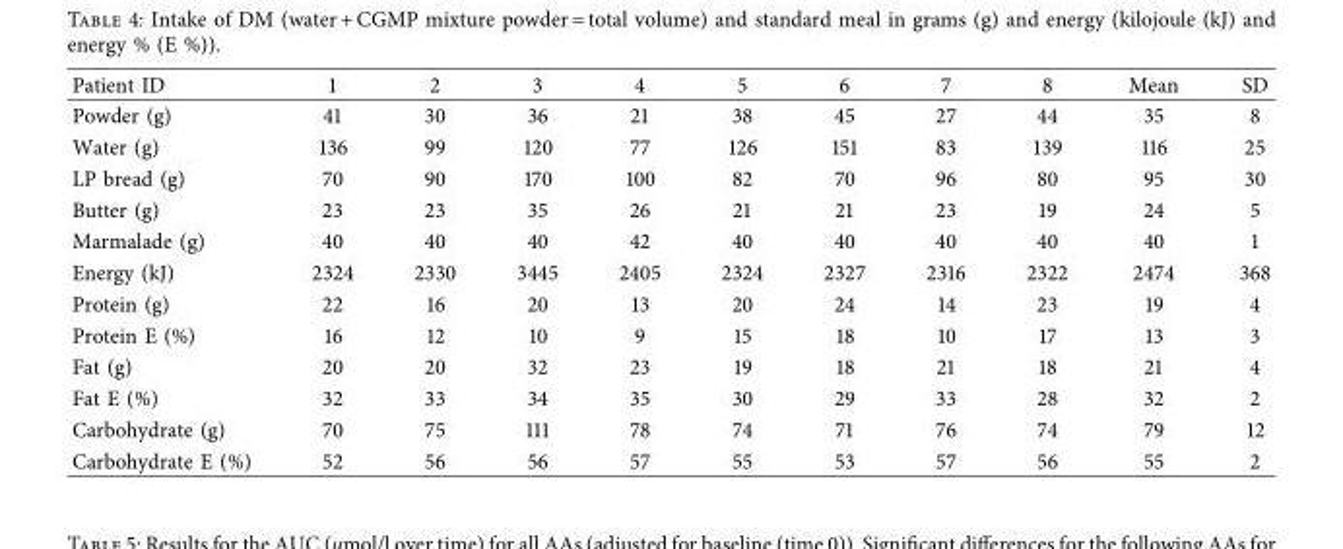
<table><thead><tr><td>Patient ID</td><td>1</td><td>2</td><td>3</td><td>4</td><td>5</td><td>6</td><td>7</td><td>8</td><td>Mean</td><td>SD</td></tr></thead><tbody><tr><td>Powder (g)</td><td>41</td><td>30</td><td>36</td><td>21</td><td>38</td><td>45</td><td>27</td><td>44</td><td>35</td><td>8</td></tr><tr><td>Water (g)</td><td>136</td><td>99</td><td>120</td><td>77</td><td>126</td><td>151</td><td>83</td><td>139</td><td>116</td><td>25</td></tr><tr><td>LP bread (g)</td><td>70</td><td>90</td><td>170</td><td>100</td><td>82</td><td>70</td><td>96</td><td>80</td><td>95</td><td>30</td></tr><tr><td>Butter (g)</td><td>23</td><td>23</td><td>35</td><td>26</td><td>21</td><td>21</td><td>23</td><td>19</td><td>24</td><td>5</td></tr><tr><td>Marmalade (g)</td><td>40</td><td>40</td><td>40</td><td>42</td><td>40</td><td>40</td><td>40</td><td>40</td><td>40</td><td>1</td></tr><tr><td>Energy (kJ)</td><td>2324</td><td>2330</td><td>3445</td><td>2405</td><td>2324</td><td>2327</td><td>2316</td><td>2322</td><td>2474</td><td>368</td></tr><tr><td>Protein (g)</td><td>22</td><td>16</td><td>20</td><td>13</td><td>20</td><td>24</td><td>14</td><td>23</td><td>19</td><td>4</td></tr><tr><td>Protein E (%)</td><td>16</td><td>12</td><td>10</td><td>9</td><td>15</td><td>18</td><td>10</td><td>17</td><td>13</td><td>3</td></tr><tr><td>Fat (g)</td><td>20</td><td>20</td><td>32</td><td>23</td><td>19</td><td>18</td><td>21</td><td>18</td><td>21</td><td>4</td></tr><tr><td>Fat E (%)</td><td>32</td><td>33</td><td>34</td><td>35</td><td>30</td><td>29</td><td>33</td><td>28</td><td>32</td><td>2</td></tr><tr><td>Carbohydrate (g)</td><td>70</td><td>75</td><td>111</td><td>78</td><td>74</td><td>71</td><td>76</td><td>74</td><td>79</td><td>12</td></tr><tr><td>Carbohydrate E (%)</td><td>52</td><td>56</td><td>56</td><td>57</td><td>55</td><td>53</td><td>57</td><td>56</td><td>55</td><td>2</td></tr></tbody></table>